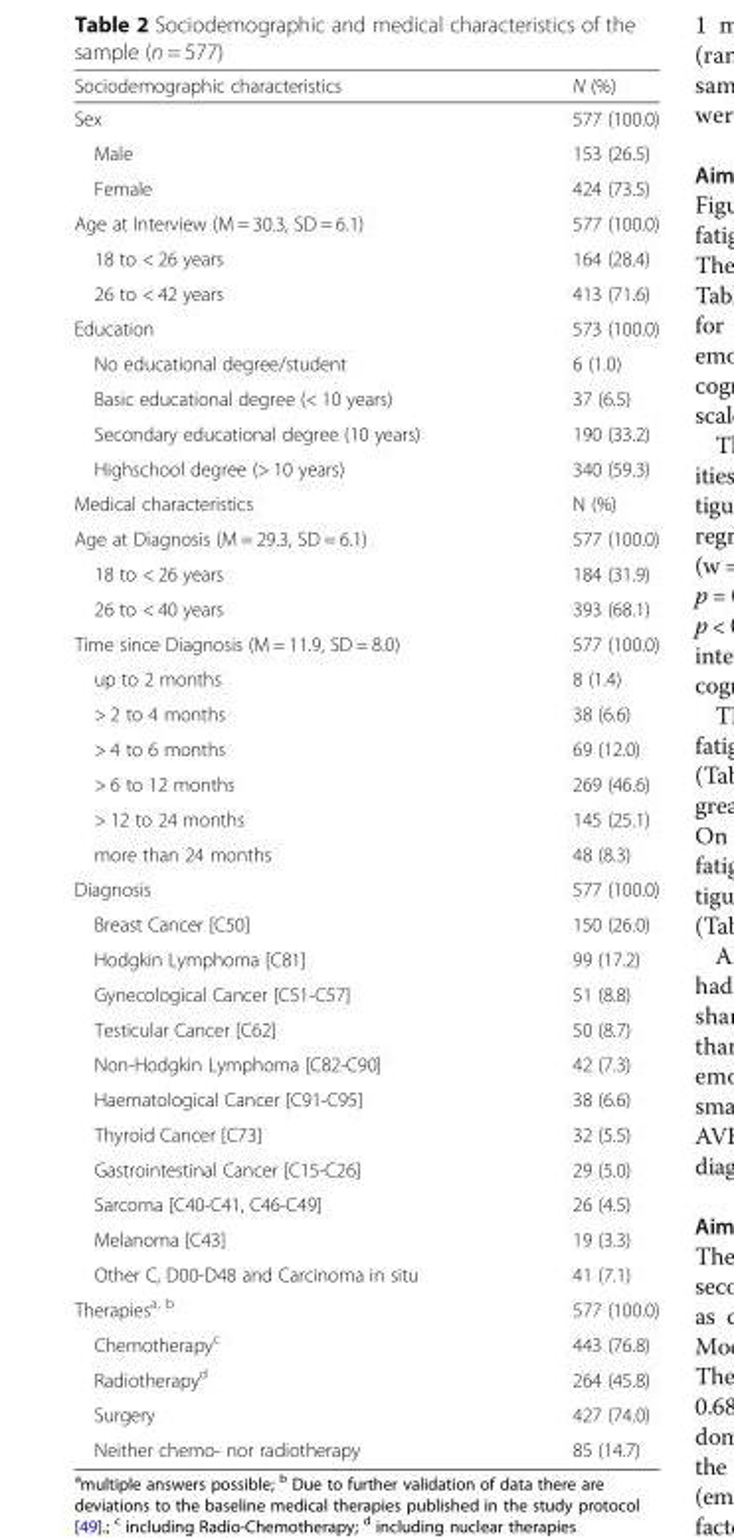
<table><thead><tr><td>Sociodemographic characteristics</td><td>N (%)</td></tr></thead><tbody><tr><td>Sex</td><td>577 (100.0)</td></tr><tr><td>Male</td><td>153 (26.5)</td></tr><tr><td>Female</td><td>424 (73.5)</td></tr><tr><td>Age at Interview (M = 30.3, SD = 6.1)</td><td>577 (100.0)</td></tr><tr><td>18 to &lt; 26 years</td><td>164 (28.4)</td></tr><tr><td>26 to &lt; 42 years</td><td>413 (71.6)</td></tr><tr><td>Education</td><td>573 (100.0)</td></tr><tr><td>No educational degree/student</td><td>6 (1.0)</td></tr><tr><td>Basic educational degree (&lt; 10 years)</td><td>37 (6.5)</td></tr><tr><td>Secondary educational degree (10 years)</td><td>190 (33.2)</td></tr><tr><td>Highschool degree (&gt; 10 years)</td><td>340 (59.3)</td></tr><tr><td>Medical characteristics</td><td>N (%)</td></tr><tr><td>Age at Diagnosis (M = 29.3, SD = 6.1)</td><td>577 (100.0)</td></tr><tr><td>18 to &lt; 26 years</td><td>184 (31.9)</td></tr><tr><td>26 to &lt; 40 years</td><td>393 (68.1)</td></tr><tr><td>Time since Diagnosis (M = 11.9, SD = 8.0)</td><td>577 (100.0)</td></tr><tr><td>up to 2 months</td><td>8 (1.4)</td></tr><tr><td>&gt; 2 to 4 months</td><td>38 (6.6)</td></tr><tr><td>&gt; 4 to 6 months</td><td>69 (12.0)</td></tr><tr><td>&gt; 6 to 12 months</td><td>269 (46.6)</td></tr><tr><td>&gt; 12 to 24 months</td><td>145 (25.1)</td></tr><tr><td>more than 24 months</td><td>48 (8.3)</td></tr><tr><td>Diagnosis</td><td>577 (100.0)</td></tr><tr><td>Breast Cancer [C50]</td><td>150 (26.0)</td></tr><tr><td>Hodgkin Lymphoma [C81]</td><td>99 (17.2)</td></tr><tr><td>Gynecological Cancer [C51-C57]</td><td>51 (8.8)</td></tr><tr><td>Testicular Cancer [C62]</td><td>50 (8.7)</td></tr><tr><td>Non-Hodgkin Lymphoma [C82-C90]</td><td>42 (7.3)</td></tr><tr><td>Haematological Cancer [C91-C95]</td><td>38 (6.6)</td></tr><tr><td>Thyroid Cancer [C73]</td><td>32 (5.5)</td></tr><tr><td>Gastrointestinal Cancer [C15-C26]</td><td>29 (5.0)</td></tr><tr><td>Sarcoma [C40-C41, C46-C49]</td><td>26 (4.5)</td></tr><tr><td>Melanoma [C43]</td><td>19 (3.3)</td></tr><tr><td>Other C, D00-D48 and Carcinoma in situ</td><td>41 (7.1)</td></tr><tr><td>Therapies<sup>a, b</sup></td><td>577 (100.0)</td></tr><tr><td>Chemotherapy<sup>c</sup></td><td>443 (76.8)</td></tr><tr><td>Radiotherapy<sup>d</sup></td><td>264 (45.8)</td></tr><tr><td>Surgery</td><td>427 (74.0)</td></tr><tr><td>Neither chemo- nor radiotherapy</td><td>85 (14.7)</td></tr></tbody></table>